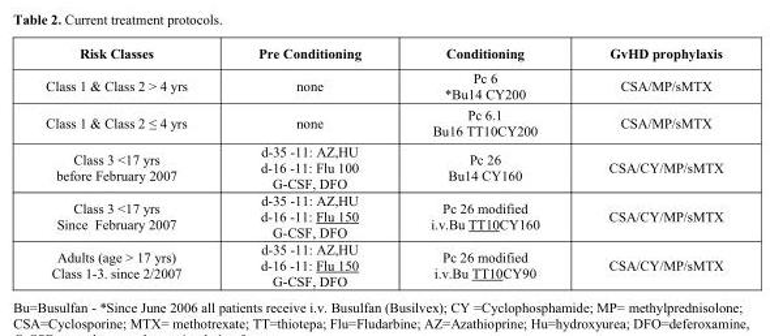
<table><thead><tr><td>Risk Classes</td><td>Pre Conditioning</td><td>Conditioning</td><td>GvHD prophylaxis</td></tr></thead><tbody><tr><td>Class 1 &amp; Class 2 &gt; 4 yrs</td><td>none</td><td>Pc 6 *Bu14 CY200</td><td>CSA/MP/sMTX</td></tr><tr><td>Class 1 &amp; Class 2 ≤ 4 yrs</td><td>none</td><td>Pc 6.1 Bu16 TT10CY200</td><td>CSA/MP/sMTX</td></tr><tr><td>Class 3 &lt;17 yrs before February 2007</td><td>d-35 -11: AZ,HU d-16 -11: Flu 100 G-CSF, DFO</td><td>Pc 26 Bu14 CY160</td><td>CSA/CY/MP/sMTX</td></tr><tr><td>Class 3 &lt;17 yrs Since February 2007</td><td>d-35 -11: AZ,HU d-16 -11: Flu 150 G-CSF, DFO</td><td>Pc 26 modified i.v.Bu TT10CY160</td><td>CSA/CY/MP/sMTX</td></tr><tr><td>Adults (age &gt; 17 yrs) Class 1-3. since 2/2007</td><td>d-35 -11: AZ,HU d-16 -11: Flu 150 G-CSF, DFO</td><td>Pc 26 modified i.v.Bu TT10CY90</td><td>CSA/CY/MP/sMTX</td></tr></tbody></table>